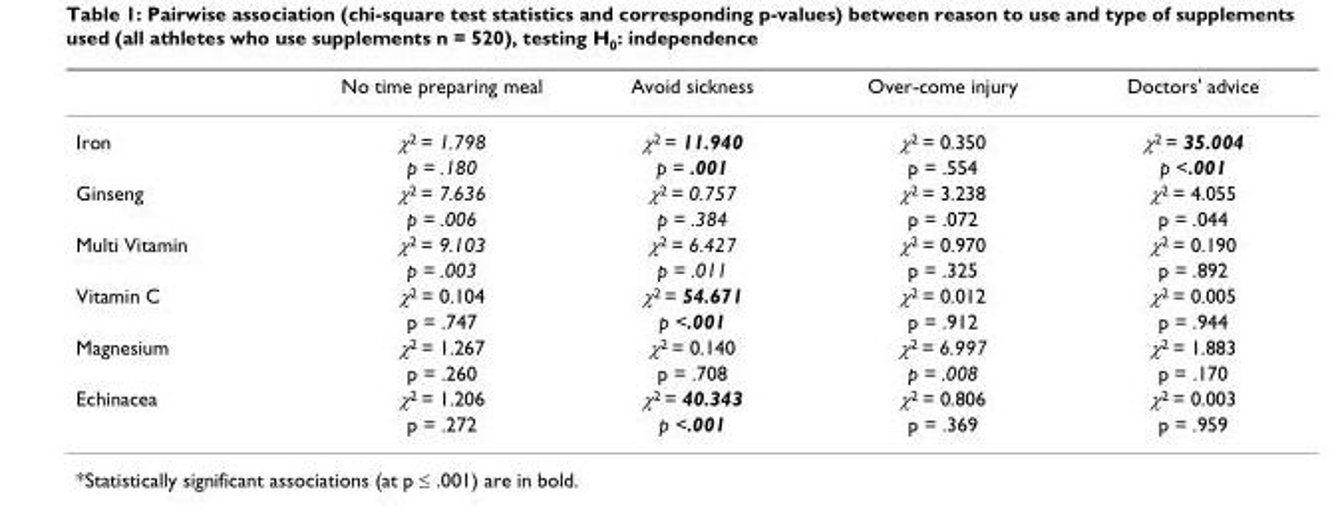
<table><thead><tr><td></td><td>No time preparing meal</td><td>Avoid sickness</td><td>Over-come injury</td><td>Doctors&#x27; advice</td></tr></thead><tbody><tr><td rowspan="2">Iron</td><td>χ<sup>2</sup> = 1.798</td><td>χ<sup>2</sup> = 11.940</td><td>χ<sup>2</sup> = 0.350</td><td>χ<sup>2</sup> = 35.004</td></tr><tr><td>p = .180</td><td>p = .001</td><td>p = .554</td><td>p &lt;.001</td></tr><tr><td rowspan="2">Ginseng</td><td>χ<sup>2</sup> = 7.636</td><td>χ<sup>2</sup> = 0.757</td><td>χ<sup>2</sup> = 3.238</td><td>χ<sup>2</sup> = 4.055</td></tr><tr><td>p = .006</td><td>p = .384</td><td>p = .072</td><td>p = .044</td></tr><tr><td rowspan="2">Multi Vitamin</td><td>χ<sup>2</sup> = 9.103</td><td>χ<sup>2</sup> = 6.427</td><td>χ<sup>2</sup> = 0.970</td><td>χ<sup>2</sup> = 0.190</td></tr><tr><td>p = .003</td><td>p = .011</td><td>p = .325</td><td>p = .892</td></tr><tr><td rowspan="2">Vitamin C</td><td>χ<sup>2</sup> = 0.104</td><td>χ<sup>2</sup> = 54.671</td><td>χ<sup>2</sup> = 0.012</td><td>χ<sup>2</sup> = 0.005</td></tr><tr><td>p = .747</td><td>p &lt;.001</td><td>p = .912</td><td>p = .944</td></tr><tr><td rowspan="2">Magnesium</td><td>χ<sup>2</sup> = 1.267</td><td>χ<sup>2</sup> = 0.140</td><td>χ<sup>2</sup> = 6.997</td><td>χ<sup>2</sup> = 1.883</td></tr><tr><td>p = .260</td><td>p = .708</td><td>p = .008</td><td>p = .170</td></tr><tr><td rowspan="2">Echinacea</td><td>χ<sup>2</sup> = 1.206</td><td>χ<sup>2</sup> = 40.343</td><td>χ<sup>2</sup> = 0.806</td><td>χ<sup>2</sup> = 0.003</td></tr><tr><td>p = .272</td><td>p &lt;.001</td><td>p = .369</td><td>p = .959</td></tr></tbody></table>